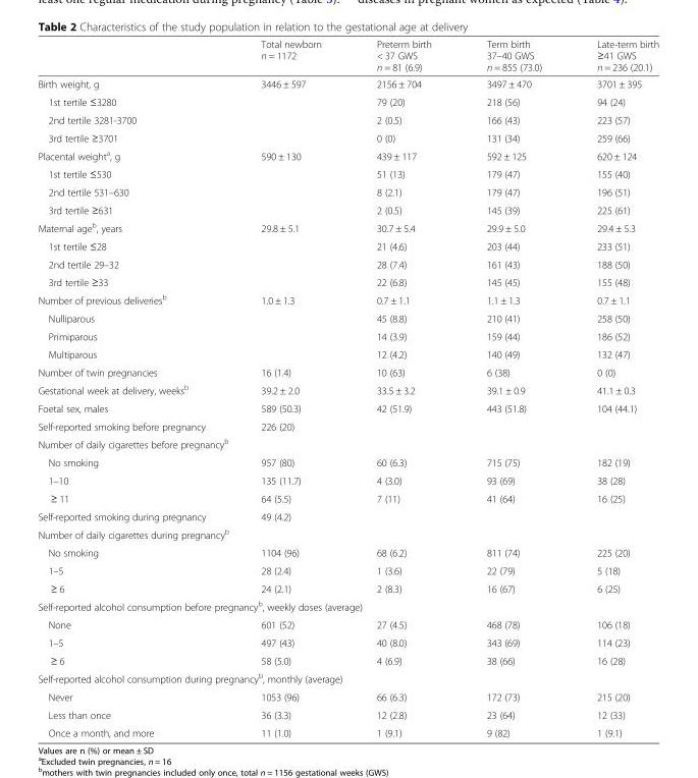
<table><thead><tr><td></td><td>Total newborn n = 1172</td><td>Preterm birth &lt; 37 GWS n = 81 (6.9)</td><td>Term birth 37–40 GWS n = 855 (73.0)</td><td>Late-term birth ≥41 GWS n = 236 (20.1)</td></tr></thead><tbody><tr><td>Birth weight, g</td><td>3446 ± 597</td><td>2156 ± 704</td><td>3497 ± 470</td><td>3701 ± 395</td></tr><tr><td>1st tertile ≤3280</td><td></td><td>79 (20)</td><td>218 (56)</td><td>94 (24)</td></tr><tr><td>2nd tertile 3281-3700</td><td></td><td>2 (0.5)</td><td>166 (43)</td><td>223 (57)</td></tr><tr><td>3rd tertile ≥3701</td><td></td><td>0 (0)</td><td>131 (34)</td><td>259 (66)</td></tr><tr><td>Placental weight<sup>a</sup>, g</td><td>590 ± 130</td><td>439 ± 117</td><td>592 ± 125</td><td>620 ± 124</td></tr><tr><td>1st tertile ≤530</td><td></td><td>51 (13)</td><td>179 (47)</td><td>155 (40)</td></tr><tr><td>2nd tertile 531–630</td><td></td><td>8 (2.1)</td><td>179 (47)</td><td>196 (51)</td></tr><tr><td>3rd tertile ≥631</td><td></td><td>2 (0.5)</td><td>145 (39)</td><td>225 (61)</td></tr><tr><td>Maternal age<sup>b</sup>, years</td><td>29.8 ± 5.1</td><td>30.7 ± 5.4</td><td>29.9 ± 5.0</td><td>29.4 ± 5.3</td></tr><tr><td>1st tertile ≤28</td><td></td><td>21 (4.6)</td><td>203 (44)</td><td>233 (51)</td></tr><tr><td>2nd tertile 29–32</td><td></td><td>28 (7.4)</td><td>161 (43)</td><td>188 (50)</td></tr><tr><td>3rd tertile ≥33</td><td></td><td>22 (6.8)</td><td>145 (45)</td><td>155 (48)</td></tr><tr><td>Number of previous deliveries<sup>b</sup></td><td>1.0 ± 1.3</td><td>0.7 ± 1.1</td><td>1.1 ± 1.3</td><td>0.7 ± 1.1</td></tr><tr><td>Nulliparous</td><td></td><td>45 (8.8)</td><td>210 (41)</td><td>258 (50)</td></tr><tr><td>Primiparous</td><td></td><td>14 (3.9)</td><td>159 (44)</td><td>186 (52)</td></tr><tr><td>Multiparous</td><td></td><td>12 (4.2)</td><td>140 (49)</td><td>132 (47)</td></tr><tr><td>Number of twin pregnancies</td><td>16 (1.4)</td><td>10 (63)</td><td>6 (38)</td><td>0 (0)</td></tr><tr><td>Gestational week at delivery, weeks<sup>b</sup></td><td>39.2 ± 2.0</td><td>33.5 ± 3.2</td><td>39.1 ± 0.9</td><td>41.1 ± 0.3</td></tr><tr><td>Foetal sex, males</td><td>589 (50.3)</td><td>42 (51.9)</td><td>443 (51.8)</td><td>104 (44.1)</td></tr><tr><td>Self-reported smoking before pregnancy</td><td>226 (20)</td><td></td><td></td><td></td></tr><tr><td colspan="5">Number of daily cigarettes before pregnancy<sup>b</sup></td></tr><tr><td>No smoking</td><td>957 (80)</td><td>60 (6.3)</td><td>715 (75)</td><td>182 (19)</td></tr><tr><td>1–10</td><td>135 (11.7)</td><td>4 (3.0)</td><td>93 (69)</td><td>38 (28)</td></tr><tr><td>≥ 11</td><td>64 (5.5)</td><td>7 (11)</td><td>41 (64)</td><td>16 (25)</td></tr><tr><td>Self-reported smoking during pregnancy</td><td>49 (4.2)</td><td></td><td></td><td></td></tr><tr><td colspan="5">Number of daily cigarettes during pregnancy<sup>b</sup></td></tr><tr><td>No smoking</td><td>1104 (96)</td><td>68 (6.2)</td><td>811 (74)</td><td>225 (20)</td></tr><tr><td>1–5</td><td>28 (2.4)</td><td>1 (3.6)</td><td>22 (79)</td><td>5 (18)</td></tr><tr><td>≥ 6</td><td>24 (2.1)</td><td>2 (8.3)</td><td>16 (67)</td><td>6 (25)</td></tr><tr><td colspan="5">Self-reported alcohol consumption before pregnancy<sup>b</sup>, weekly doses (average)</td></tr><tr><td>None</td><td>601 (52)</td><td>27 (4.5)</td><td>468 (78)</td><td>106 (18)</td></tr><tr><td>1–5</td><td>497 (43)</td><td>40 (8.0)</td><td>343 (69)</td><td>114 (23)</td></tr><tr><td>≥ 6</td><td>58 (5.0)</td><td>4 (6.9)</td><td>38 (66)</td><td>16 (28)</td></tr><tr><td colspan="5">Self-reported alcohol consumption during pregnancy<sup>b</sup>, monthly (average)</td></tr><tr><td>Never</td><td>1053 (96)</td><td>66 (6.3)</td><td>172 (73)</td><td>215 (20)</td></tr><tr><td>Less than once</td><td>36 (3.3)</td><td>12 (2.8)</td><td>23 (64)</td><td>12 (33)</td></tr><tr><td>Once a month, and more</td><td>11 (1.0)</td><td>1 (9.1)</td><td>9 (82)</td><td>1 (9.1)</td></tr></tbody></table>